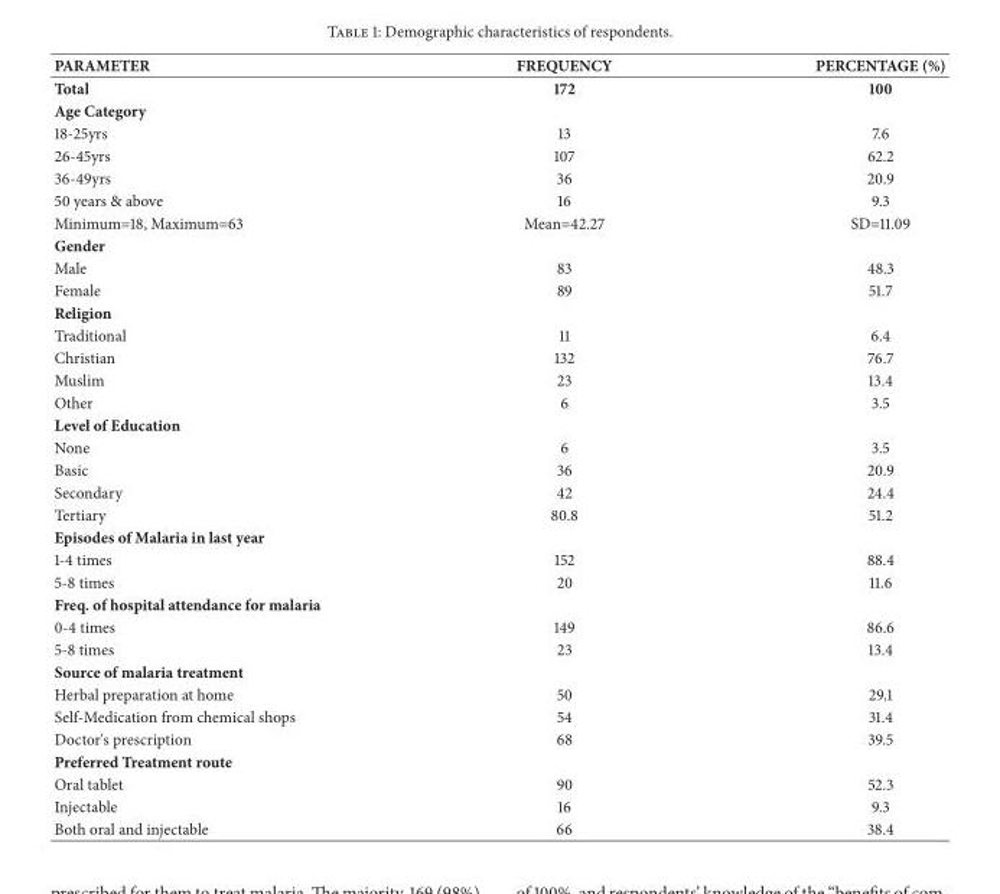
<table><thead><tr><td>PARAMETER</td><td>FREQUENCY</td><td>PERCENTAGE (%)</td></tr></thead><tbody><tr><td>Total</td><td>172</td><td>100</td></tr><tr><td colspan="3">Age Category</td></tr><tr><td>18-25yrs</td><td>13</td><td>7.6</td></tr><tr><td>26-45yrs</td><td>107</td><td>62.2</td></tr><tr><td>36-49yrs</td><td>36</td><td>20.9</td></tr><tr><td>50 years &amp; above</td><td>16</td><td>9.3</td></tr><tr><td>Minimum=18, Maximum=63</td><td>Mean=42.27</td><td>SD=11.09</td></tr><tr><td colspan="3">Gender</td></tr><tr><td>Male</td><td>83</td><td>48.3</td></tr><tr><td>Female</td><td>89</td><td>51.7</td></tr><tr><td colspan="3">Religion</td></tr><tr><td>Traditional</td><td>11</td><td>6.4</td></tr><tr><td>Christian</td><td>132</td><td>76.7</td></tr><tr><td>Muslim</td><td>23</td><td>13.4</td></tr><tr><td>Other</td><td>6</td><td>3.5</td></tr><tr><td colspan="3">Level of Education</td></tr><tr><td>None</td><td>6</td><td>3.5</td></tr><tr><td>Basic</td><td>36</td><td>20.9</td></tr><tr><td>Secondary</td><td>42</td><td>24.4</td></tr><tr><td>Tertiary</td><td>80.8</td><td>51.2</td></tr><tr><td colspan="3">Episodes of Malaria in last year</td></tr><tr><td>1-4 times</td><td>152</td><td>88.4</td></tr><tr><td>5-8 times</td><td>20</td><td>11.6</td></tr><tr><td colspan="3">Freq. of hospital attendance for malaria</td></tr><tr><td>0-4 times</td><td>149</td><td>86.6</td></tr><tr><td>5-8 times</td><td>23</td><td>13.4</td></tr><tr><td colspan="3">Source of malaria treatment</td></tr><tr><td>Herbal preparation at home</td><td>50</td><td>29.1</td></tr><tr><td>Self-Medication from chemical shops</td><td>54</td><td>31.4</td></tr><tr><td>Doctor&#x27;s prescription</td><td>68</td><td>39.5</td></tr><tr><td colspan="3">Preferred Treatment route</td></tr><tr><td>Oral tablet</td><td>90</td><td>52.3</td></tr><tr><td>Injectable</td><td>16</td><td>9.3</td></tr><tr><td>Both oral and injectable</td><td>66</td><td>38.4</td></tr></tbody></table>